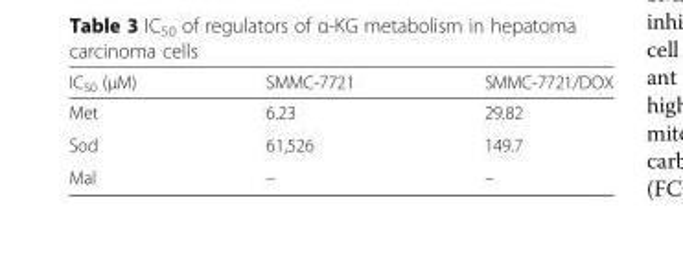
<table><thead><tr><td>IC<sub>50</sub> (μM)</td><td>SMMC-7721</td><td>SMMC-7721/DOX</td></tr></thead><tbody><tr><td>Met</td><td>6.23</td><td>29.82</td></tr><tr><td>Sod</td><td>61,526</td><td>149.7</td></tr><tr><td>Mal</td><td>–</td><td>–</td></tr></tbody></table>